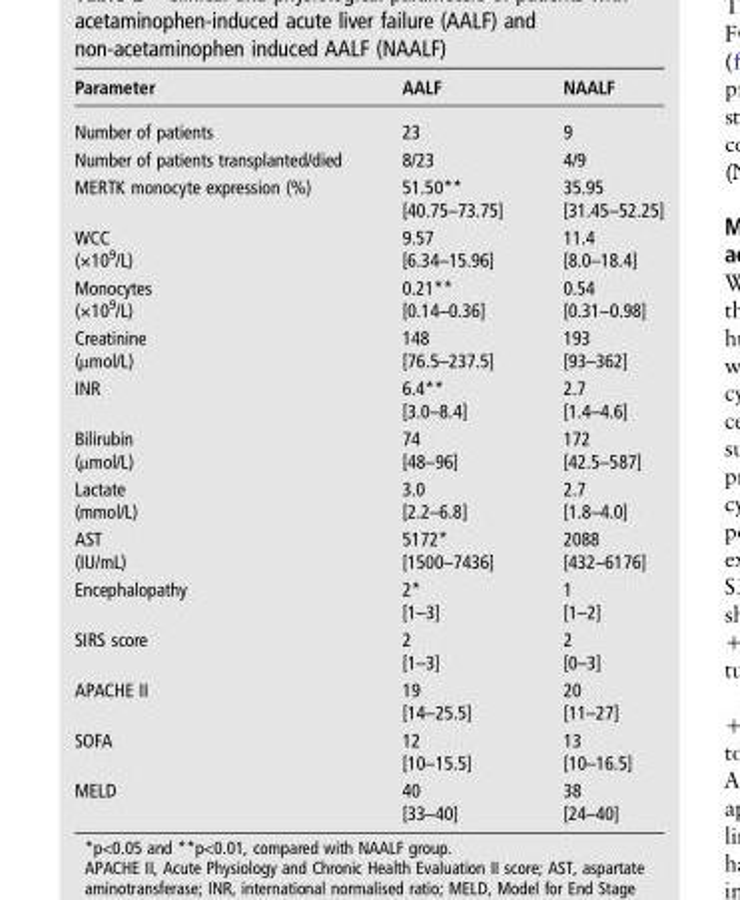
<table><thead><tr><td>Parameter</td><td>AALF</td><td>NAALF</td></tr></thead><tbody><tr><td>Number of patients</td><td>23</td><td>9</td></tr><tr><td>Number of patients transplanted/died</td><td>8/23</td><td>4/9</td></tr><tr><td>MERTK monocyte expression (%)</td><td>51.50** [40.75–73.75]</td><td>35.95 [31.45–52.25]</td></tr><tr><td>WCC (×10<sup>9</sup>/L)</td><td>9.57 [6.34–15.96]</td><td>11.4 [8.0–18.4]</td></tr><tr><td>Monocytes (×10<sup>9</sup>/L)</td><td>0.21** [0.14–0.36]</td><td>0.54 [0.31–0.98]</td></tr><tr><td>Creatinine (μmol/L)</td><td>148 [76.5–237.5]</td><td>193 [93–362]</td></tr><tr><td>INR</td><td>6.4** [3.0–8.4]</td><td>2.7 [1.4–4.6]</td></tr><tr><td>Bilirubin (μmol/L)</td><td>74 [48–96]</td><td>172 [42.5–587]</td></tr><tr><td>Lactate (mmol/L)</td><td>3.0 [2.2–6.8]</td><td>2.7 [1.8–4.0]</td></tr><tr><td>AST (IU/mL)</td><td>5172* [1500–7436]</td><td>2088 [432–6176]</td></tr><tr><td>Encephalopathy</td><td>2* [1–3]</td><td>1 [1–2]</td></tr><tr><td>SIRS score</td><td>2 [1–3]</td><td>2 [0–3]</td></tr><tr><td>APACHE II</td><td>19 [14–25.5]</td><td>20 [11–27]</td></tr><tr><td>SOFA</td><td>12 [10–15.5]</td><td>13 [10–16.5]</td></tr><tr><td>MELD</td><td>40 [33–40]</td><td>38 [24–40]</td></tr></tbody></table>